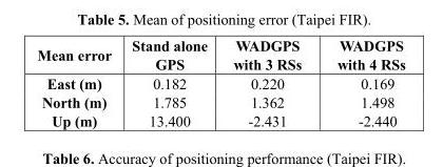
<table><thead><tr><td>Mean error</td><td>Stand alone GPS</td><td>WADGPS with 3 RSs</td><td>WADGPS with 4 RSs</td></tr></thead><tbody><tr><td>East (m)</td><td>0.182</td><td>0.220</td><td>0.169</td></tr><tr><td>North (m)</td><td>1.785</td><td>1.362</td><td>1.498</td></tr><tr><td>Up (m)</td><td>13.400</td><td>-2.431</td><td>-2.440</td></tr></tbody></table>